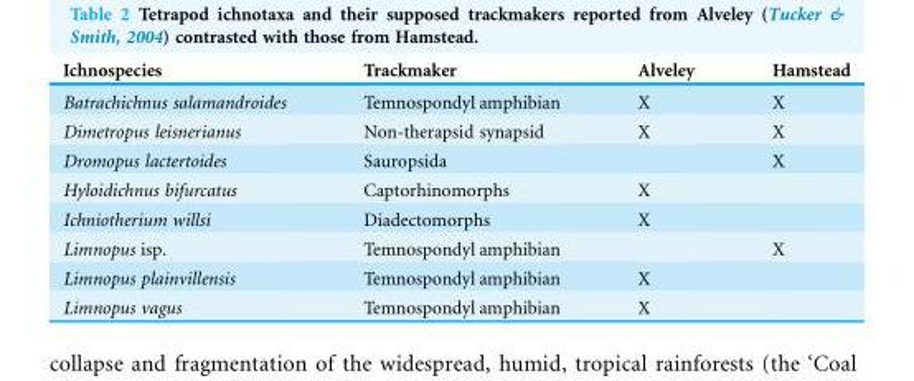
<table><thead><tr><td>Ichnospecies</td><td>Trackmaker</td><td>Alveley</td><td>Hamstead</td></tr></thead><tbody><tr><td>Batrachichnus salamandroides</td><td>Temnospondyl amphibian</td><td>X</td><td>X</td></tr><tr><td>Dimetropus leisnerianus</td><td>Non-therapsid synapsid</td><td>X</td><td>X</td></tr><tr><td>Dromopus lactertoides</td><td>Sauropsida</td><td></td><td>X</td></tr><tr><td>Hyloidichnus bifurcatus</td><td>Captorhinomorphs</td><td>X</td><td></td></tr><tr><td>Ichniotherium willsi</td><td>Diadectomorphs</td><td>X</td><td></td></tr><tr><td>Limnopus isp.</td><td>Temnospondyl amphibian</td><td></td><td>X</td></tr><tr><td>Limnopus plainvillensis</td><td>Temnospondyl amphibian</td><td>X</td><td></td></tr><tr><td>Limnopus vagus</td><td>Temnospondyl amphibian</td><td>X</td><td></td></tr></tbody></table>